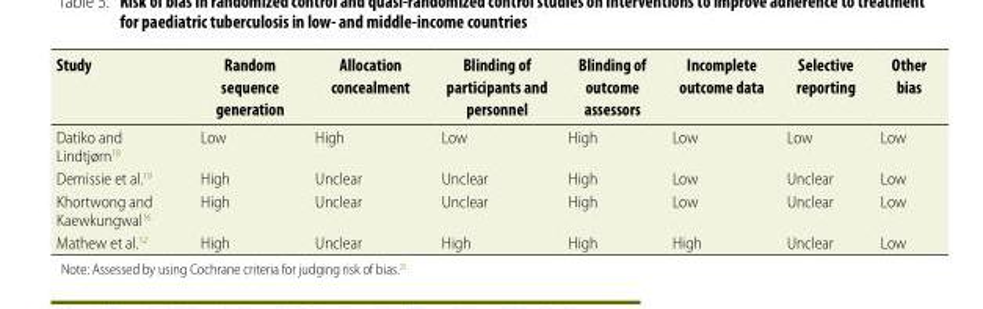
<table><thead><tr><td>Study</td><td>Random sequence generation</td><td>Allocation concealment</td><td>Blinding of participants and personnel</td><td>Blinding of outcome assessors</td><td>Incomplete outcome data</td><td>Selective reporting</td><td>Other bias</td></tr></thead><tbody><tr><td>Datiko and Lindtjørn<sup>18</sup></td><td>Low</td><td>High</td><td>Low</td><td>High</td><td>Low</td><td>Low</td><td>Low</td></tr><tr><td>Demissie et al.<sup>19</sup></td><td>High</td><td>Unclear</td><td>Unclear</td><td>High</td><td>Low</td><td>Unclear</td><td>Low</td></tr><tr><td>Khortwong and Kaewkungwal<sup>16</sup></td><td>High</td><td>Unclear</td><td>Unclear</td><td>High</td><td>Low</td><td>Unclear</td><td>Low</td></tr><tr><td>Mathew et al.<sup>12</sup></td><td>High</td><td>Unclear</td><td>High</td><td>High</td><td>High</td><td>Unclear</td><td>Low</td></tr></tbody></table>